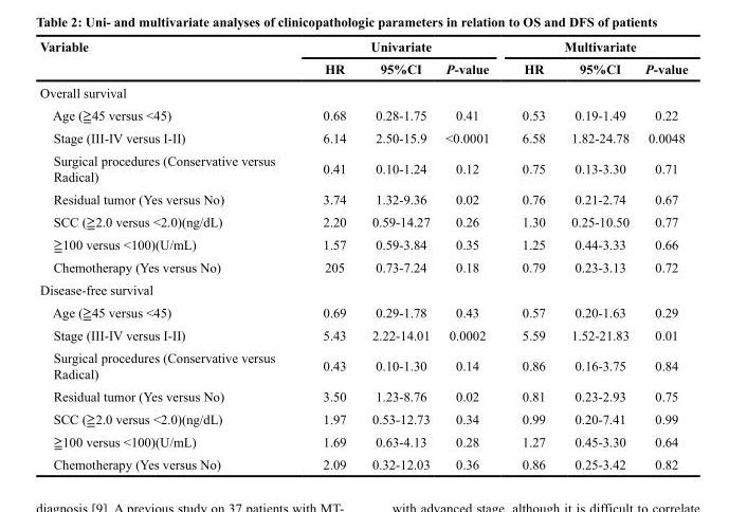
<table><thead><tr><td rowspan="2">Variable</td><td colspan="3">Univariate</td><td colspan="3">Multivariate</td></tr><tr><td>HR</td><td>95%CI</td><td>P-value</td><td>HR</td><td>95%CI</td><td>P-value</td></tr></thead><tbody><tr><td colspan="7">Overall survival</td></tr><tr><td>Age (≧45 versus &lt;45)</td><td>0.68</td><td>0.28-1.75</td><td>0.41</td><td>0.53</td><td>0.19-1.49</td><td>0.22</td></tr><tr><td>Stage (III-IV versus I-II)</td><td>6.14</td><td>2.50-15.9</td><td>&lt;0.0001</td><td>6.58</td><td>1.82-24.78</td><td>0.0048</td></tr><tr><td>Surgical procedures (Conservative versus Radical)</td><td>0.41</td><td>0.10-1.24</td><td>0.12</td><td>0.75</td><td>0.13-3.30</td><td>0.71</td></tr><tr><td>Residual tumor (Yes versus No)</td><td>3.74</td><td>1.32-9.36</td><td>0.02</td><td>0.76</td><td>0.21-2.74</td><td>0.67</td></tr><tr><td>SCC (≧2.0 versus &lt;2.0)(ng/dL)</td><td>2.20</td><td>0.59-14.27</td><td>0.26</td><td>1.30</td><td>0.25-10.50</td><td>0.77</td></tr><tr><td>≧100 versus &lt;100)(U/mL)</td><td>1.57</td><td>0.59-3.84</td><td>0.35</td><td>1.25</td><td>0.44-3.33</td><td>0.66</td></tr><tr><td>Chemotherapy (Yes versus No)</td><td>205</td><td>0.73-7.24</td><td>0.18</td><td>0.79</td><td>0.23-3.13</td><td>0.72</td></tr><tr><td colspan="7">Disease-free survival</td></tr><tr><td>Age (≧45 versus &lt;45)</td><td>0.69</td><td>0.29-1.78</td><td>0.43</td><td>0.57</td><td>0.20-1.63</td><td>0.29</td></tr><tr><td>Stage (III-IV versus I-II)</td><td>5.43</td><td>2.22-14.01</td><td>0.0002</td><td>5.59</td><td>1.52-21.83</td><td>0.01</td></tr><tr><td>Surgical procedures (Conservative versus Radical)</td><td>0.43</td><td>0.10-1.30</td><td>0.14</td><td>0.86</td><td>0.16-3.75</td><td>0.84</td></tr><tr><td>Residual tumor (Yes versus No)</td><td>3.50</td><td>1.23-8.76</td><td>0.02</td><td>0.81</td><td>0.23-2.93</td><td>0.75</td></tr><tr><td>SCC (≧2.0 versus &lt;2.0)(ng/dL)</td><td>1.97</td><td>0.53-12.73</td><td>0.34</td><td>0.99</td><td>0.20-7.41</td><td>0.99</td></tr><tr><td>≧100 versus &lt;100)(U/mL)</td><td>1.69</td><td>0.63-4.13</td><td>0.28</td><td>1.27</td><td>0.45-3.30</td><td>0.64</td></tr><tr><td>Chemotherapy (Yes versus No)</td><td>2.09</td><td>0.32-12.03</td><td>0.36</td><td>0.86</td><td>0.25-3.42</td><td>0.82</td></tr></tbody></table>